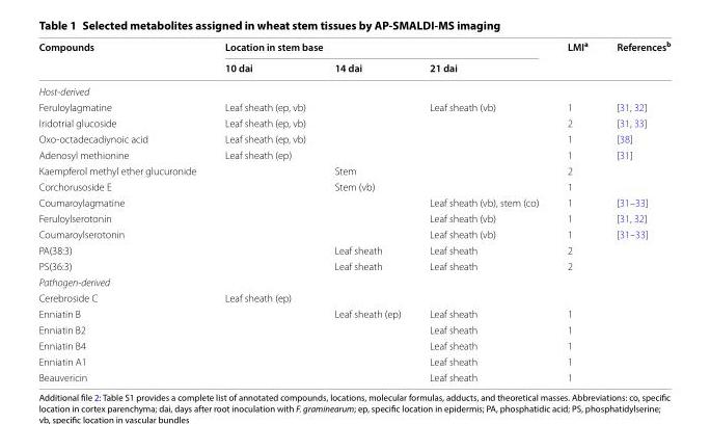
<table><thead><tr><td rowspan="2">Compounds</td><td colspan="3">Location in stem base</td><td rowspan="2">LMI<sup>a</sup></td><td rowspan="2">References<sup>b</sup></td></tr><tr><td>10 dai</td><td>14 dai</td><td>21 dai</td></tr></thead><tbody><tr><td colspan="6">Host-derived</td></tr><tr><td>Feruloylagmatine</td><td>Leaf sheath (ep, vb)</td><td></td><td>Leaf sheath (vb)</td><td>1</td><td>[31, 32]</td></tr><tr><td>Iridotrial glucoside</td><td>Leaf sheath (ep, vb)</td><td></td><td></td><td>2</td><td>[31, 33]</td></tr><tr><td>Oxo-octadecadiynoic acid</td><td>Leaf sheath (ep, vb)</td><td></td><td></td><td>1</td><td>[38]</td></tr><tr><td>Adenosyl methionine</td><td>Leaf sheath (ep)</td><td></td><td></td><td>1</td><td>[31]</td></tr><tr><td>Kaempferol methyl ether glucuronide</td><td></td><td>Stem</td><td></td><td>2</td><td></td></tr><tr><td>Corchorusoside E</td><td></td><td>Stem (vb)</td><td></td><td>1</td><td></td></tr><tr><td>Coumaroylagmatine</td><td></td><td></td><td>Leaf sheath (vb), stem (co)</td><td>1</td><td>[31–33]</td></tr><tr><td>Feruloylserotonin</td><td></td><td></td><td>Leaf sheath (vb)</td><td>1</td><td>[31, 32]</td></tr><tr><td>Coumaroylserotonin</td><td></td><td></td><td>Leaf sheath (vb)</td><td>1</td><td>[31–33]</td></tr><tr><td>PA(38:3)</td><td></td><td>Leaf sheath</td><td>Leaf sheath</td><td>2</td><td></td></tr><tr><td>PS(36:3)</td><td></td><td>Leaf sheath</td><td>Leaf sheath</td><td>2</td><td></td></tr><tr><td colspan="6">Pathogen-derived</td></tr><tr><td>Cerebroside C</td><td>Leaf sheath (ep)</td><td></td><td></td><td></td><td></td></tr><tr><td>Enniatin B</td><td></td><td>Leaf sheath (ep)</td><td>Leaf sheath</td><td>1</td><td></td></tr><tr><td>Enniatin B2</td><td></td><td></td><td>Leaf sheath</td><td>1</td><td></td></tr><tr><td>Enniatin B4</td><td></td><td></td><td>Leaf sheath</td><td>1</td><td></td></tr><tr><td>Enniatin A1</td><td></td><td></td><td>Leaf sheath</td><td>1</td><td></td></tr><tr><td>Beauvericin</td><td></td><td></td><td>Leaf sheath</td><td>1</td><td></td></tr></tbody></table>